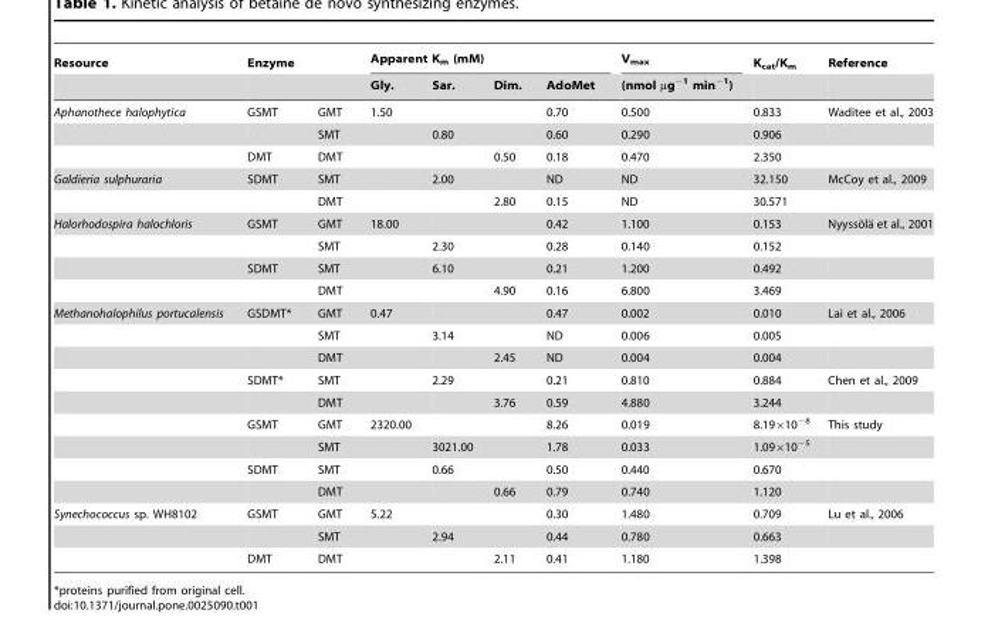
<table><thead><tr><td rowspan="2">Resource</td><td colspan="2">Enzyme</td><td colspan="4">Apparent K<sub>m</sub> (mM)</td><td rowspan="2">V<sub>max</sub> (nmol µg<sup>−1</sup> min<sup>−1</sup>)</td><td rowspan="2">K<sub>cat</sub>/K<sub>m</sub></td><td rowspan="2">Reference</td></tr><tr><td></td><td></td><td>Gly.</td><td>Sar.</td><td>Dim.</td><td>AdoMet</td></tr></thead><tbody><tr><td rowspan="3">Aphanothece halophytica</td><td>GSMT</td><td>GMT</td><td>1.50</td><td></td><td></td><td>0.70</td><td>0.500</td><td>0.833</td><td>Waditee et al., 2003</td></tr><tr><td></td><td>SMT</td><td></td><td>0.80</td><td></td><td>0.60</td><td>0.290</td><td>0.906</td><td></td></tr><tr><td>DMT</td><td>DMT</td><td></td><td></td><td>0.50</td><td>0.18</td><td>0.470</td><td>2.350</td><td></td></tr><tr><td rowspan="2">Galdieria sulphuraria</td><td>SDMT</td><td>SMT</td><td></td><td>2.00</td><td></td><td>ND</td><td>ND</td><td>32.150</td><td>McCoy et al., 2009</td></tr><tr><td></td><td>DMT</td><td></td><td></td><td>2.80</td><td>0.15</td><td>ND</td><td>30.571</td><td></td></tr><tr><td rowspan="4">Halorhodospira halochloris</td><td>GSMT</td><td>GMT</td><td>18.00</td><td></td><td></td><td>0.42</td><td>1.100</td><td>0.153</td><td>Nyysso¨la¨ et al., 2001</td></tr><tr><td></td><td>SMT</td><td></td><td>2.30</td><td></td><td>0.28</td><td>0.140</td><td>0.152</td><td></td></tr><tr><td>SDMT</td><td>SMT</td><td></td><td>6.10</td><td></td><td>0.21</td><td>1.200</td><td>0.492</td><td></td></tr><tr><td></td><td>DMT</td><td></td><td></td><td>4.90</td><td>0.16</td><td>6.800</td><td>3.469</td><td></td></tr><tr><td rowspan="9">Methanohalophilus portucalensis</td><td>GSDMT*</td><td>GMT</td><td>0.47</td><td></td><td></td><td>0.47</td><td>0.002</td><td>0.010</td><td>Lai et al., 2006</td></tr><tr><td></td><td>SMT</td><td></td><td>3.14</td><td></td><td>ND</td><td>0.006</td><td>0.005</td><td></td></tr><tr><td></td><td>DMT</td><td></td><td></td><td>2.45</td><td>ND</td><td>0.004</td><td>0.004</td><td></td></tr><tr><td>SDMT*</td><td>SMT</td><td></td><td>2.29</td><td></td><td>0.21</td><td>0.810</td><td>0.884</td><td>Chen et al., 2009</td></tr><tr><td></td><td>DMT</td><td></td><td></td><td>3.76</td><td>0.59</td><td>4.880</td><td>3.244</td><td></td></tr><tr><td>GSMT</td><td>GMT</td><td>2320.00</td><td></td><td></td><td>8.26</td><td>0.019</td><td>8.19×10<sup>−8</sup></td><td>This study</td></tr><tr><td></td><td>SMT</td><td></td><td>3021.00</td><td></td><td>1.78</td><td>0.033</td><td>1.09×10<sup>−5</sup></td><td></td></tr><tr><td>SDMT</td><td>SMT</td><td></td><td>0.66</td><td></td><td>0.50</td><td>0.440</td><td>0.670</td><td></td></tr><tr><td></td><td>DMT</td><td></td><td></td><td>0.66</td><td>0.79</td><td>0.740</td><td>1.120</td><td></td></tr><tr><td rowspan="3">Synechococcus sp. WH8102</td><td>GSMT</td><td>GMT</td><td>5.22</td><td></td><td></td><td>0.30</td><td>1.480</td><td>0.709</td><td>Lu et al., 2006</td></tr><tr><td></td><td>SMT</td><td></td><td>2.94</td><td></td><td>0.44</td><td>0.780</td><td>0.663</td><td></td></tr><tr><td>DMT</td><td>DMT</td><td></td><td></td><td>2.11</td><td>0.41</td><td>1.180</td><td>1.398</td><td></td></tr></tbody></table>